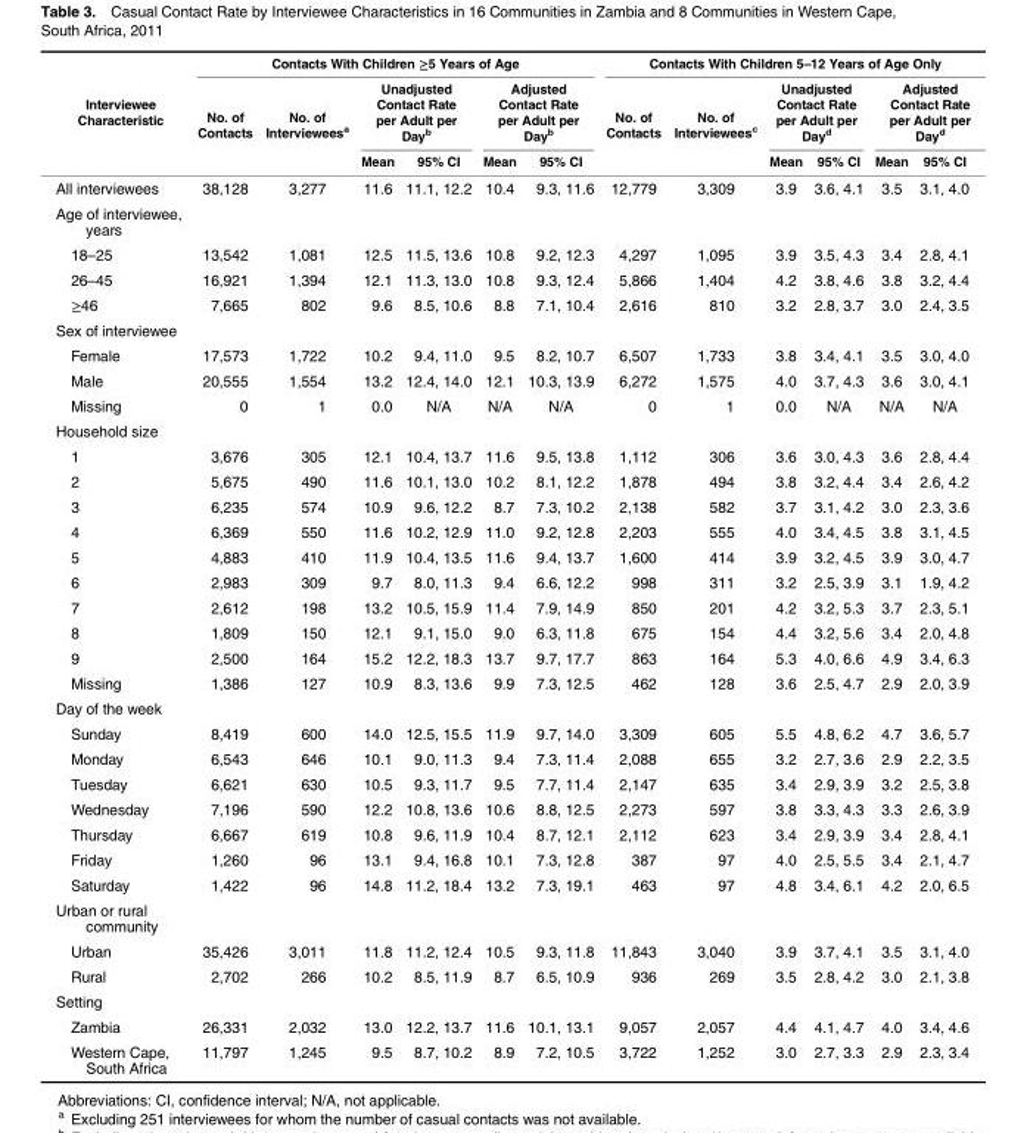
<table><thead><tr><td rowspan="3">Interviewee Characteristic</td><td colspan="6">Contacts With Children ≥5 Years of Age</td><td colspan="6">Contacts With Children 5–12 Years of Age Only</td></tr><tr><td rowspan="2">No. of Contacts</td><td rowspan="2">No. of Interviewees<sup>a</sup></td><td colspan="2">Unadjusted Contact Rate per Adult per Day<sup>b</sup></td><td colspan="2">Adjusted Contact Rate per Adult per Day<sup>b</sup></td><td rowspan="2">No. of Contacts</td><td rowspan="2">No. of Interviewees<sup>c</sup></td><td colspan="2">Unadjusted Contact Rate per Adult per Day<sup>d</sup></td><td colspan="2">Adjusted Contact Rate per Adult per Day<sup>d</sup></td></tr><tr><td>Mean</td><td>95% CI</td><td>Mean</td><td>95% CI</td><td>Mean</td><td>95% CI</td><td>Mean</td><td>95% CI</td></tr></thead><tbody><tr><td>All interviewees</td><td>38,128</td><td>3,277</td><td>11.6</td><td>11.1, 12.2</td><td>10.4</td><td>9.3, 11.6</td><td>12,779</td><td>3,309</td><td>3.9</td><td>3.6, 4.1</td><td>3.5</td><td>3.1, 4.0</td></tr><tr><td colspan="13">Age of interviewee, years</td></tr><tr><td>18–25</td><td>13,542</td><td>1,081</td><td>12.5</td><td>11.5, 13.6</td><td>10.8</td><td>9.2, 12.3</td><td>4,297</td><td>1,095</td><td>3.9</td><td>3.5, 4.3</td><td>3.4</td><td>2.8, 4.1</td></tr><tr><td>26–45</td><td>16,921</td><td>1,394</td><td>12.1</td><td>11.3, 13.0</td><td>10.8</td><td>9.3, 12.4</td><td>5,866</td><td>1,404</td><td>4.2</td><td>3.8, 4.6</td><td>3.8</td><td>3.2, 4.4</td></tr><tr><td>≥46</td><td>7,665</td><td>802</td><td>9.6</td><td>8.5, 10.6</td><td>8.8</td><td>7.1, 10.4</td><td>2,616</td><td>810</td><td>3.2</td><td>2.8, 3.7</td><td>3.0</td><td>2.4, 3.5</td></tr><tr><td colspan="13">Sex of interviewee</td></tr><tr><td>Female</td><td>17,573</td><td>1,722</td><td>10.2</td><td>9.4, 11.0</td><td>9.5</td><td>8.2, 10.7</td><td>6,507</td><td>1,733</td><td>3.8</td><td>3.4, 4.1</td><td>3.5</td><td>3.0, 4.0</td></tr><tr><td>Male</td><td>20,555</td><td>1,554</td><td>13.2</td><td>12.4, 14.0</td><td>12.1</td><td>10.3, 13.9</td><td>6,272</td><td>1,575</td><td>4.0</td><td>3.7, 4.3</td><td>3.6</td><td>3.0, 4.1</td></tr><tr><td>Missing</td><td>0</td><td>1</td><td>0.0</td><td>N/A</td><td>N/A</td><td>N/A</td><td>0</td><td>1</td><td>0.0</td><td>N/A</td><td>N/A</td><td>N/A</td></tr><tr><td colspan="13">Household size</td></tr><tr><td>1</td><td>3,676</td><td>305</td><td>12.1</td><td>10.4, 13.7</td><td>11.6</td><td>9.5, 13.8</td><td>1,112</td><td>306</td><td>3.6</td><td>3.0, 4.3</td><td>3.6</td><td>2.8, 4.4</td></tr><tr><td>2</td><td>5,675</td><td>490</td><td>11.6</td><td>10.1, 13.0</td><td>10.2</td><td>8.1, 12.2</td><td>1,878</td><td>494</td><td>3.8</td><td>3.2, 4.4</td><td>3.4</td><td>2.6, 4.2</td></tr><tr><td>3</td><td>6,235</td><td>574</td><td>10.9</td><td>9.6, 12.2</td><td>8.7</td><td>7.3, 10.2</td><td>2,138</td><td>582</td><td>3.7</td><td>3.1, 4.2</td><td>3.0</td><td>2.3, 3.6</td></tr><tr><td>4</td><td>6,369</td><td>550</td><td>11.6</td><td>10.2, 12.9</td><td>11.0</td><td>9.2, 12.8</td><td>2,203</td><td>555</td><td>4.0</td><td>3.4, 4.5</td><td>3.8</td><td>3.1, 4.5</td></tr><tr><td>5</td><td>4,883</td><td>410</td><td>11.9</td><td>10.4, 13.5</td><td>11.6</td><td>9.4, 13.7</td><td>1,600</td><td>414</td><td>3.9</td><td>3.2, 4.5</td><td>3.9</td><td>3.0, 4.7</td></tr><tr><td>6</td><td>2,983</td><td>309</td><td>9.7</td><td>8.0, 11.3</td><td>9.4</td><td>6.6, 12.2</td><td>998</td><td>311</td><td>3.2</td><td>2.5, 3.9</td><td>3.1</td><td>1.9, 4.2</td></tr><tr><td>7</td><td>2,612</td><td>198</td><td>13.2</td><td>10.5, 15.9</td><td>11.4</td><td>7.9, 14.9</td><td>850</td><td>201</td><td>4.2</td><td>3.2, 5.3</td><td>3.7</td><td>2.3, 5.1</td></tr><tr><td>8</td><td>1,809</td><td>150</td><td>12.1</td><td>9.1, 15.0</td><td>9.0</td><td>6.3, 11.8</td><td>675</td><td>154</td><td>4.4</td><td>3.2, 5.6</td><td>3.4</td><td>2.0, 4.8</td></tr><tr><td>9</td><td>2,500</td><td>164</td><td>15.2</td><td>12.2, 18.3</td><td>13.7</td><td>9.7, 17.7</td><td>863</td><td>164</td><td>5.3</td><td>4.0, 6.6</td><td>4.9</td><td>3.4, 6.3</td></tr><tr><td>Missing</td><td>1,386</td><td>127</td><td>10.9</td><td>8.3, 13.6</td><td>9.9</td><td>7.3, 12.5</td><td>462</td><td>128</td><td>3.6</td><td>2.5, 4.7</td><td>2.9</td><td>2.0, 3.9</td></tr><tr><td colspan="13">Day of the week</td></tr><tr><td>Sunday</td><td>8,419</td><td>600</td><td>14.0</td><td>12.5, 15.5</td><td>11.9</td><td>9.7, 14.0</td><td>3,309</td><td>605</td><td>5.5</td><td>4.8, 6.2</td><td>4.7</td><td>3.6, 5.7</td></tr><tr><td>Monday</td><td>6,543</td><td>646</td><td>10.1</td><td>9.0, 11.3</td><td>9.4</td><td>7.3, 11.4</td><td>2,088</td><td>655</td><td>3.2</td><td>2.7, 3.6</td><td>2.9</td><td>2.2, 3.5</td></tr><tr><td>Tuesday</td><td>6,621</td><td>630</td><td>10.5</td><td>9.3, 11.7</td><td>9.5</td><td>7.7, 11.4</td><td>2,147</td><td>635</td><td>3.4</td><td>2.9, 3.9</td><td>3.2</td><td>2.5, 3.8</td></tr><tr><td>Wednesday</td><td>7,196</td><td>590</td><td>12.2</td><td>10.8, 13.6</td><td>10.6</td><td>8.8, 12.5</td><td>2,273</td><td>597</td><td>3.8</td><td>3.3, 4.3</td><td>3.3</td><td>2.6, 3.9</td></tr><tr><td>Thursday</td><td>6,667</td><td>619</td><td>10.8</td><td>9.6, 11.9</td><td>10.4</td><td>8.7, 12.1</td><td>2,112</td><td>623</td><td>3.4</td><td>2.9, 3.9</td><td>3.4</td><td>2.8, 4.1</td></tr><tr><td>Friday</td><td>1,260</td><td>96</td><td>13.1</td><td>9.4, 16.8</td><td>10.1</td><td>7.3, 12.8</td><td>387</td><td>97</td><td>4.0</td><td>2.5, 5.5</td><td>3.4</td><td>2.1, 4.7</td></tr><tr><td>Saturday</td><td>1,422</td><td>96</td><td>14.8</td><td>11.2, 18.4</td><td>13.2</td><td>7.3, 19.1</td><td>463</td><td>97</td><td>4.8</td><td>3.4, 6.1</td><td>4.2</td><td>2.0, 6.5</td></tr><tr><td colspan="13">Urban or rural community</td></tr><tr><td>Urban</td><td>35,426</td><td>3,011</td><td>11.8</td><td>11.2, 12.4</td><td>10.5</td><td>9.3, 11.8</td><td>11,843</td><td>3,040</td><td>3.9</td><td>3.7, 4.1</td><td>3.5</td><td>3.1, 4.0</td></tr><tr><td>Rural</td><td>2,702</td><td>266</td><td>10.2</td><td>8.5, 11.9</td><td>8.7</td><td>6.5, 10.9</td><td>936</td><td>269</td><td>3.5</td><td>2.8, 4.2</td><td>3.0</td><td>2.1, 3.8</td></tr><tr><td colspan="13">Setting</td></tr><tr><td>Zambia</td><td>26,331</td><td>2,032</td><td>13.0</td><td>12.2, 13.7</td><td>11.6</td><td>10.1, 13.1</td><td>9,057</td><td>2,057</td><td>4.4</td><td>4.1, 4.7</td><td>4.0</td><td>3.4, 4.6</td></tr><tr><td>Western Cape, South Africa</td><td>11,797</td><td>1,245</td><td>9.5</td><td>8.7, 10.2</td><td>8.9</td><td>7.2, 10.5</td><td>3,722</td><td>1,252</td><td>3.0</td><td>2.7, 3.3</td><td>2.9</td><td>2.3, 3.4</td></tr></tbody></table>